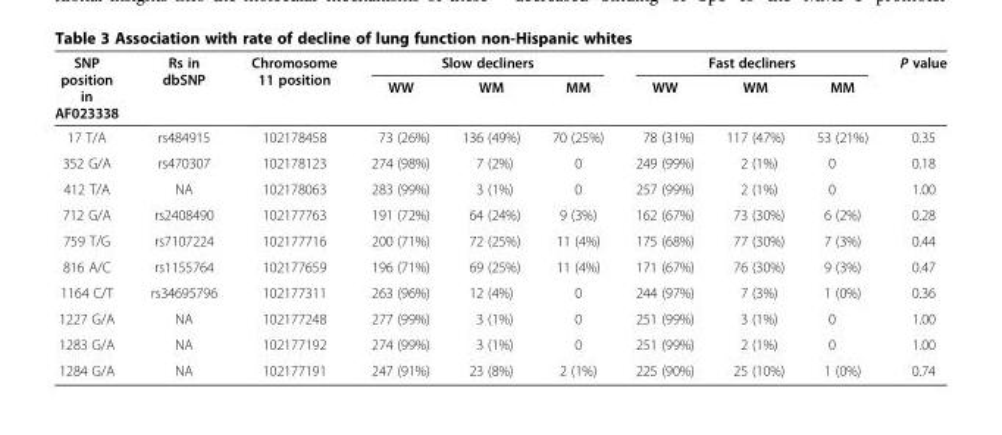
<table><thead><tr><td rowspan="2">SNP position in AF023338</td><td rowspan="2">Rs in dbSNP</td><td rowspan="2">Chromosome 11 position</td><td colspan="3">Slow decliners</td><td colspan="3">Fast decliners</td><td rowspan="2">P value</td></tr><tr><td>WW</td><td>WM</td><td>MM</td><td>WW</td><td>WM</td><td>MM</td></tr></thead><tbody><tr><td>17 T/A</td><td>rs484915</td><td>102178458</td><td>73 (26%)</td><td>136 (49%)</td><td>70 (25%)</td><td>78 (31%)</td><td>117 (47%)</td><td>53 (21%)</td><td>0.35</td></tr><tr><td>352 G/A</td><td>rs470307</td><td>102178123</td><td>274 (98%)</td><td>7 (2%)</td><td>0</td><td>249 (99%)</td><td>2 (1%)</td><td>0</td><td>0.18</td></tr><tr><td>412 T/A</td><td>NA</td><td>102178063</td><td>283 (99%)</td><td>3 (1%)</td><td>0</td><td>257 (99%)</td><td>2 (1%)</td><td>0</td><td>1.00</td></tr><tr><td>712 G/A</td><td>rs2408490</td><td>102177763</td><td>191 (72%)</td><td>64 (24%)</td><td>9 (3%)</td><td>162 (67%)</td><td>73 (30%)</td><td>6 (2%)</td><td>0.28</td></tr><tr><td>759 T/G</td><td>rs7107224</td><td>102177716</td><td>200 (71%)</td><td>72 (25%)</td><td>11 (4%)</td><td>175 (68%)</td><td>77 (30%)</td><td>7 (3%)</td><td>0.44</td></tr><tr><td>816 A/C</td><td>rs1155764</td><td>102177659</td><td>196 (71%)</td><td>69 (25%)</td><td>11 (4%)</td><td>171 (67%)</td><td>76 (30%)</td><td>9 (3%)</td><td>0.47</td></tr><tr><td>1164 C/T</td><td>rs34695796</td><td>102177311</td><td>263 (96%)</td><td>12 (4%)</td><td>0</td><td>244 (97%)</td><td>7 (3%)</td><td>1 (0%)</td><td>0.36</td></tr><tr><td>1227 G/A</td><td>NA</td><td>102177248</td><td>277 (99%)</td><td>3 (1%)</td><td>0</td><td>251 (99%)</td><td>3 (1%)</td><td>0</td><td>1.00</td></tr><tr><td>1283 G/A</td><td>NA</td><td>102177192</td><td>274 (99%)</td><td>3 (1%)</td><td>0</td><td>251 (99%)</td><td>2 (1%)</td><td>0</td><td>1.00</td></tr><tr><td>1284 G/A</td><td>NA</td><td>102177191</td><td>247 (91%)</td><td>23 (8%)</td><td>2 (1%)</td><td>225 (90%)</td><td>25 (10%)</td><td>1 (0%)</td><td>0.74</td></tr></tbody></table>